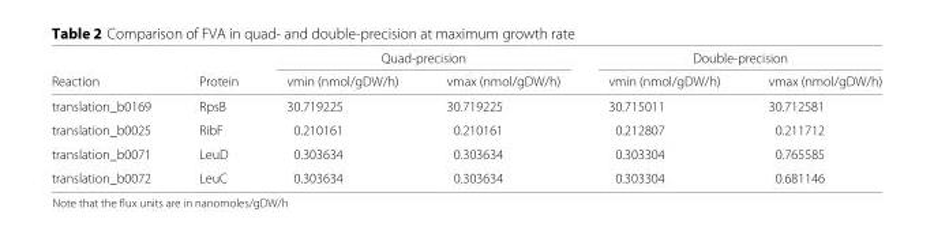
<table><thead><tr><td rowspan="2">Reaction</td><td rowspan="2">Protein</td><td colspan="2">Quad-precision</td><td colspan="2">Double-precision</td></tr><tr><td>vmin (nmol/gDW/h)</td><td>vmax (nmol/gDW/h)</td><td>vmin (nmol/gDW/h)</td><td>vmax (nmol/gDW/h)</td></tr></thead><tbody><tr><td>translation_b0169</td><td>RpsB</td><td>30.719225</td><td>30.719225</td><td>30.715011</td><td>30.712581</td></tr><tr><td>translation_b0025</td><td>RibF</td><td>0.210161</td><td>0.210161</td><td>0.212807</td><td>0.211712</td></tr><tr><td>translation_b0071</td><td>LeuD</td><td>0.303634</td><td>0.303634</td><td>0.303304</td><td>0.765585</td></tr><tr><td>translation_b0072</td><td>LeuC</td><td>0.303634</td><td>0.303634</td><td>0.303304</td><td>0.681146</td></tr></tbody></table>